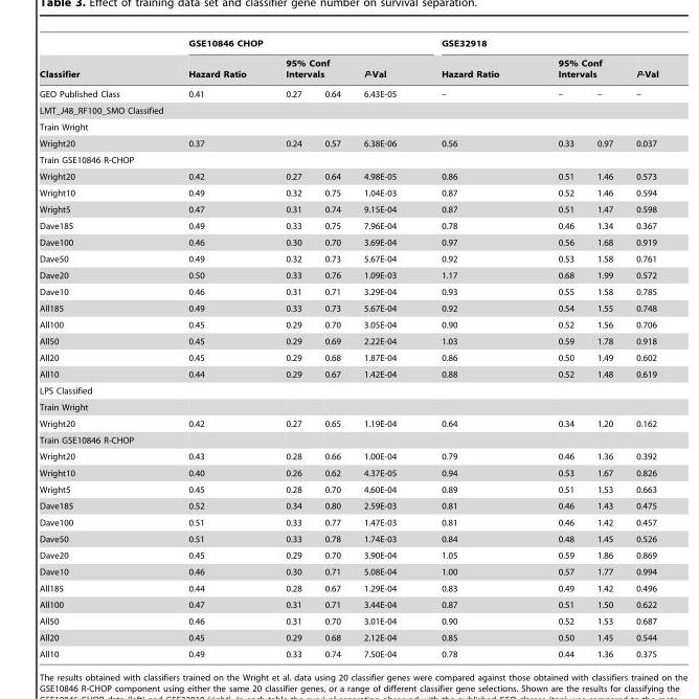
<table><thead><tr><td rowspan="3">Classifier GEO Published Class</td><td colspan="4">GSE10846 CHOP</td><td colspan="4">GSE32918</td></tr><tr><td rowspan="2">Hazard Ratio 0.41</td><td colspan="2">95% Conf Intervals</td><td rowspan="2">P-Val 6.43E-05</td><td rowspan="2">Hazard Ratio –</td><td colspan="2">95% Conf Intervals</td><td rowspan="2">P-Val –</td></tr><tr><td>0.27</td><td>0.64</td><td>–</td><td>–</td></tr></thead><tbody><tr><td colspan="9">LMT_J48_RF100_SMO Classified</td></tr><tr><td colspan="9">Train Wright</td></tr><tr><td>Wright20</td><td>0.37</td><td>0.24</td><td>0.57</td><td>6.38E-06</td><td>0.56</td><td>0.33</td><td>0.97</td><td>0.037</td></tr><tr><td colspan="9">Train GSE10846 R-CHOP</td></tr><tr><td>Wright20</td><td>0.42</td><td>0.27</td><td>0.64</td><td>4.98E-05</td><td>0.86</td><td>0.51</td><td>1.46</td><td>0.573</td></tr><tr><td>Wright10</td><td>0.49</td><td>0.32</td><td>0.75</td><td>1.04E-03</td><td>0.87</td><td>0.52</td><td>1.46</td><td>0.594</td></tr><tr><td>Wright5</td><td>0.47</td><td>0.31</td><td>0.74</td><td>9.15E-04</td><td>0.87</td><td>0.51</td><td>1.47</td><td>0.598</td></tr><tr><td>Dave185</td><td>0.49</td><td>0.33</td><td>0.75</td><td>7.96E-04</td><td>0.78</td><td>0.46</td><td>1.34</td><td>0.367</td></tr><tr><td>Dave100</td><td>0.46</td><td>0.30</td><td>0.70</td><td>3.69E-04</td><td>0.97</td><td>0.56</td><td>1.68</td><td>0.919</td></tr><tr><td>Dave50</td><td>0.49</td><td>0.32</td><td>0.73</td><td>5.67E-04</td><td>0.92</td><td>0.53</td><td>1.58</td><td>0.761</td></tr><tr><td>Dave20</td><td>0.50</td><td>0.33</td><td>0.76</td><td>1.09E-03</td><td>1.17</td><td>0.68</td><td>1.99</td><td>0.572</td></tr><tr><td>Dave10</td><td>0.46</td><td>0.31</td><td>0.71</td><td>3.29E-04</td><td>0.93</td><td>0.55</td><td>1.58</td><td>0.785</td></tr><tr><td>All185</td><td>0.49</td><td>0.33</td><td>0.73</td><td>5.67E-04</td><td>0.92</td><td>0.54</td><td>1.55</td><td>0.748</td></tr><tr><td>All100</td><td>0.45</td><td>0.29</td><td>0.70</td><td>3.05E-04</td><td>0.90</td><td>0.52</td><td>1.56</td><td>0.706</td></tr><tr><td>All50</td><td>0.45</td><td>0.29</td><td>0.69</td><td>2.22E-04</td><td>1.03</td><td>0.59</td><td>1.78</td><td>0.918</td></tr><tr><td>All20</td><td>0.45</td><td>0.29</td><td>0.68</td><td>1.87E-04</td><td>0.86</td><td>0.50</td><td>1.49</td><td>0.602</td></tr><tr><td>All10</td><td>0.44</td><td>0.29</td><td>0.67</td><td>1.42E-04</td><td>0.88</td><td>0.52</td><td>1.48</td><td>0.619</td></tr><tr><td colspan="9">LPS Classified</td></tr><tr><td colspan="9">Train Wright</td></tr><tr><td>Wright20</td><td>0.42</td><td>0.27</td><td>0.65</td><td>1.19E-04</td><td>0.64</td><td>0.34</td><td>1.20</td><td>0.162</td></tr><tr><td colspan="9">Train GSE10846 R-CHOP</td></tr><tr><td>Wright20</td><td>0.43</td><td>0.28</td><td>0.66</td><td>1.00E-04</td><td>0.79</td><td>0.46</td><td>1.36</td><td>0.392</td></tr><tr><td>Wright10</td><td>0.40</td><td>0.26</td><td>0.62</td><td>4.37E-05</td><td>0.94</td><td>0.53</td><td>1.67</td><td>0.826</td></tr><tr><td>Wright5</td><td>0.45</td><td>0.28</td><td>0.70</td><td>4.60E-04</td><td>0.89</td><td>0.51</td><td>1.53</td><td>0.663</td></tr><tr><td>Dave185</td><td>0.52</td><td>0.34</td><td>0.80</td><td>2.59E-03</td><td>0.81</td><td>0.46</td><td>1.43</td><td>0.475</td></tr><tr><td>Dave100</td><td>0.51</td><td>0.33</td><td>0.77</td><td>1.47E-03</td><td>0.81</td><td>0.46</td><td>1.42</td><td>0.457</td></tr><tr><td>Dave50</td><td>0.51</td><td>0.33</td><td>0.78</td><td>1.74E-03</td><td>0.84</td><td>0.48</td><td>1.45</td><td>0.526</td></tr><tr><td>Dave20</td><td>0.45</td><td>0.29</td><td>0.70</td><td>3.90E-04</td><td>1.05</td><td>0.59</td><td>1.86</td><td>0.869</td></tr><tr><td>Dave10</td><td>0.46</td><td>0.30</td><td>0.71</td><td>5.08E-04</td><td>1.00</td><td>0.57</td><td>1.77</td><td>0.994</td></tr><tr><td>All185</td><td>0.44</td><td>0.28</td><td>0.67</td><td>1.29E-04</td><td>0.83</td><td>0.49</td><td>1.42</td><td>0.496</td></tr><tr><td>All100</td><td>0.47</td><td>0.31</td><td>0.71</td><td>3.44E-04</td><td>0.87</td><td>0.51</td><td>1.50</td><td>0.622</td></tr><tr><td>All50</td><td>0.46</td><td>0.31</td><td>0.70</td><td>3.01E-04</td><td>0.90</td><td>0.52</td><td>1.53</td><td>0.687</td></tr><tr><td>All20</td><td>0.45</td><td>0.29</td><td>0.68</td><td>2.12E-04</td><td>0.85</td><td>0.50</td><td>1.45</td><td>0.544</td></tr><tr><td>All10</td><td>0.49</td><td>0.33</td><td>0.74</td><td>7.50E-04</td><td>0.78</td><td>0.44</td><td>1.36</td><td>0.375</td></tr></tbody></table>